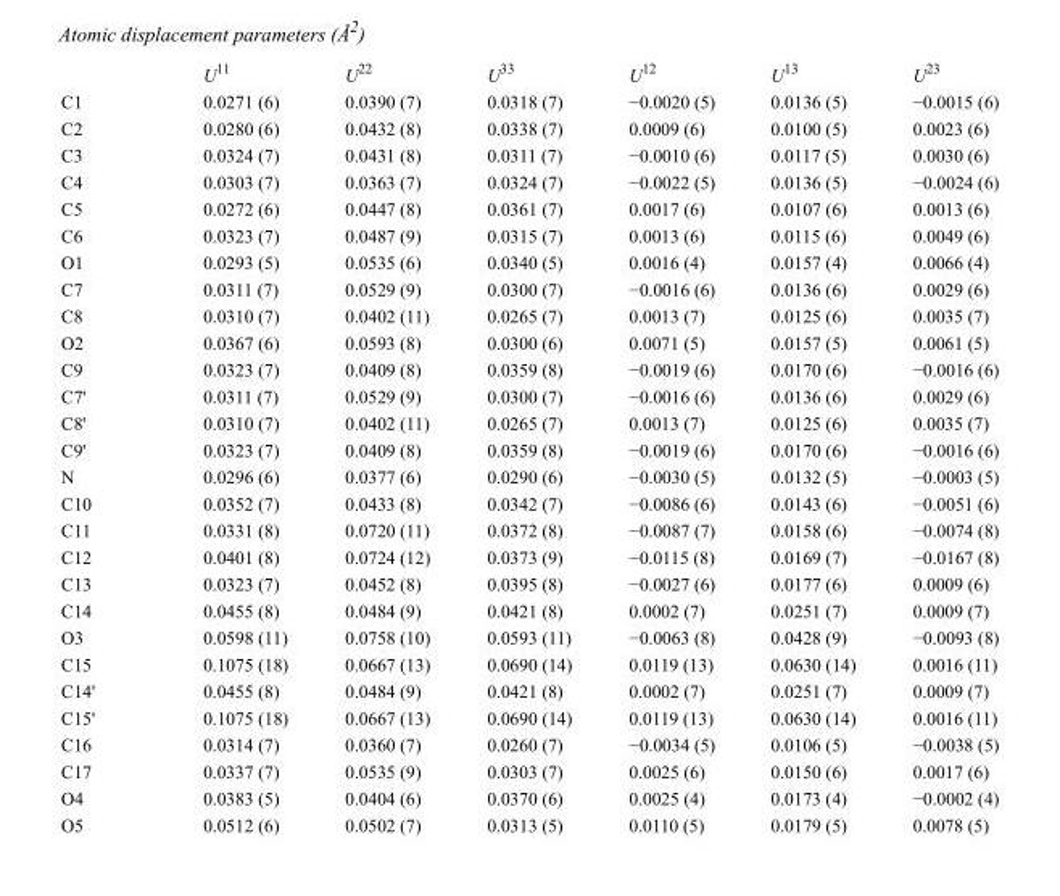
<table><thead><tr><td></td><td>U<sup>11</sup></td><td>U<sup>22</sup></td><td>U<sup>33</sup></td><td>U<sup>12</sup></td><td>U<sup>13</sup></td><td>U<sup>23</sup></td></tr></thead><tbody><tr><td>C1</td><td>0.0271 (6)</td><td>0.0390 (7)</td><td>0.0318 (7)</td><td>−0.0020 (5)</td><td>0.0136 (5)</td><td>−0.0015 (6)</td></tr><tr><td>C2</td><td>0.0280 (6)</td><td>0.0432 (8)</td><td>0.0338 (7)</td><td>0.0009 (6)</td><td>0.0100 (5)</td><td>0.0023 (6)</td></tr><tr><td>C3</td><td>0.0324 (7)</td><td>0.0431 (8)</td><td>0.0311 (7)</td><td>−0.0010 (6)</td><td>0.0117 (5)</td><td>0.0030 (6)</td></tr><tr><td>C4</td><td>0.0303 (7)</td><td>0.0363 (7)</td><td>0.0324 (7)</td><td>−0.0022 (5)</td><td>0.0136 (5)</td><td>−0.0024 (6)</td></tr><tr><td>C5</td><td>0.0272 (6)</td><td>0.0447 (8)</td><td>0.0361 (7)</td><td>0.0017 (6)</td><td>0.0107 (6)</td><td>0.0013 (6)</td></tr><tr><td>C6</td><td>0.0323 (7)</td><td>0.0487 (9)</td><td>0.0315 (7)</td><td>0.0013 (6)</td><td>0.0115 (6)</td><td>0.0049 (6)</td></tr><tr><td>O1</td><td>0.0293 (5)</td><td>0.0535 (6)</td><td>0.0340 (5)</td><td>0.0016 (4)</td><td>0.0157 (4)</td><td>0.0066 (4)</td></tr><tr><td>C7</td><td>0.0311 (7)</td><td>0.0529 (9)</td><td>0.0300 (7)</td><td>−0.0016 (6)</td><td>0.0136 (6)</td><td>0.0029 (6)</td></tr><tr><td>C8</td><td>0.0310 (7)</td><td>0.0402 (11)</td><td>0.0265 (7)</td><td>0.0013 (7)</td><td>0.0125 (6)</td><td>0.0035 (7)</td></tr><tr><td>O2</td><td>0.0367 (6)</td><td>0.0593 (8)</td><td>0.0300 (6)</td><td>0.0071 (5)</td><td>0.0157 (5)</td><td>0.0061 (5)</td></tr><tr><td>C9</td><td>0.0323 (7)</td><td>0.0409 (8)</td><td>0.0359 (8)</td><td>−0.0019 (6)</td><td>0.0170 (6)</td><td>−0.0016 (6)</td></tr><tr><td>C7&#x27;</td><td>0.0311 (7)</td><td>0.0529 (9)</td><td>0.0300 (7)</td><td>−0.0016 (6)</td><td>0.0136 (6)</td><td>0.0029 (6)</td></tr><tr><td>C8&#x27;</td><td>0.0310 (7)</td><td>0.0402 (11)</td><td>0.0265 (7)</td><td>0.0013 (7)</td><td>0.0125 (6)</td><td>0.0035 (7)</td></tr><tr><td>C9&#x27;</td><td>0.0323 (7)</td><td>0.0409 (8)</td><td>0.0359 (8)</td><td>−0.0019 (6)</td><td>0.0170 (6)</td><td>−0.0016 (6)</td></tr><tr><td>N</td><td>0.0296 (6)</td><td>0.0377 (6)</td><td>0.0290 (6)</td><td>−0.0030 (5)</td><td>0.0132 (5)</td><td>−0.0003 (5)</td></tr><tr><td>C10</td><td>0.0352 (7)</td><td>0.0433 (8)</td><td>0.0342 (7)</td><td>−0.0086 (6)</td><td>0.0143 (6)</td><td>−0.0051 (6)</td></tr><tr><td>C11</td><td>0.0331 (8)</td><td>0.0720 (11)</td><td>0.0372 (8)</td><td>−0.0087 (7)</td><td>0.0158 (6)</td><td>−0.0074 (8)</td></tr><tr><td>C12</td><td>0.0401 (8)</td><td>0.0724 (12)</td><td>0.0373 (9)</td><td>−0.0115 (8)</td><td>0.0169 (7)</td><td>−0.0167 (8)</td></tr><tr><td>C13</td><td>0.0323 (7)</td><td>0.0452 (8)</td><td>0.0395 (8)</td><td>−0.0027 (6)</td><td>0.0177 (6)</td><td>0.0009 (6)</td></tr><tr><td>C14</td><td>0.0455 (8)</td><td>0.0484 (9)</td><td>0.0421 (8)</td><td>0.0002 (7)</td><td>0.0251 (7)</td><td>0.0009 (7)</td></tr><tr><td>O3</td><td>0.0598 (11)</td><td>0.0758 (10)</td><td>0.0593 (11)</td><td>−0.0063 (8)</td><td>0.0428 (9)</td><td>−0.0093 (8)</td></tr><tr><td>C15</td><td>0.1075 (18)</td><td>0.0667 (13)</td><td>0.0690 (14)</td><td>0.0119 (13)</td><td>0.0630 (14)</td><td>0.0016 (11)</td></tr><tr><td>C14&#x27;</td><td>0.0455 (8)</td><td>0.0484 (9)</td><td>0.0421 (8)</td><td>0.0002 (7)</td><td>0.0251 (7)</td><td>0.0009 (7)</td></tr><tr><td>C15&#x27;</td><td>0.1075 (18)</td><td>0.0667 (13)</td><td>0.0690 (14)</td><td>0.0119 (13)</td><td>0.0630 (14)</td><td>0.0016 (11)</td></tr><tr><td>C16</td><td>0.0314 (7)</td><td>0.0360 (7)</td><td>0.0260 (7)</td><td>−0.0034 (5)</td><td>0.0106 (5)</td><td>−0.0038 (5)</td></tr><tr><td>C17</td><td>0.0337 (7)</td><td>0.0535 (9)</td><td>0.0303 (7)</td><td>0.0025 (6)</td><td>0.0150 (6)</td><td>0.0017 (6)</td></tr><tr><td>O4</td><td>0.0383 (5)</td><td>0.0404 (6)</td><td>0.0370 (6)</td><td>0.0025 (4)</td><td>0.0173 (4)</td><td>−0.0002 (4)</td></tr><tr><td>O5</td><td>0.0512 (6)</td><td>0.0502 (7)</td><td>0.0313 (5)</td><td>0.0110 (5)</td><td>0.0179 (5)</td><td>0.0078 (5)</td></tr></tbody></table>